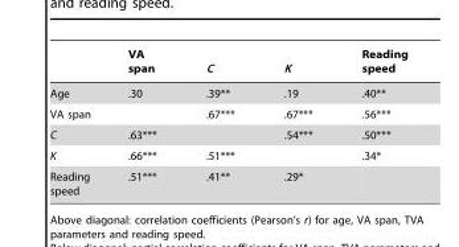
<table><thead><tr><td></td><td>VA span</td><td>C</td><td>K</td><td>Reading speed</td></tr></thead><tbody><tr><td>Age</td><td>.30</td><td>.39**</td><td>.19</td><td>.40**</td></tr><tr><td>VA span</td><td></td><td>.67***</td><td>.67***</td><td>.56***</td></tr><tr><td>C</td><td>.63***</td><td></td><td>.54***</td><td>.50***</td></tr><tr><td>K</td><td>.66***</td><td>.51***</td><td></td><td>.34*</td></tr><tr><td>Reading speed</td><td>.51***</td><td>.41**</td><td>.29*</td><td></td></tr></tbody></table>